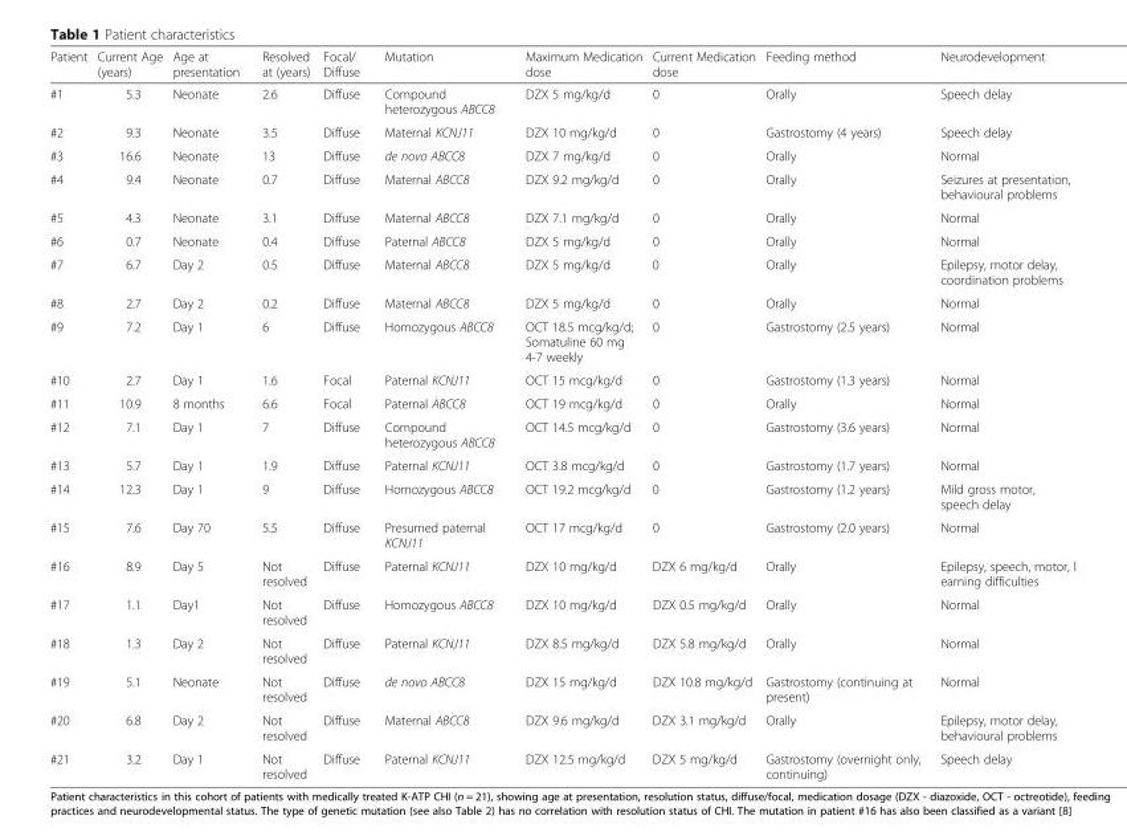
<table><thead><tr><td>Patient</td><td>Current Age (years)</td><td>Age at presentation</td><td>Resolved at (years)</td><td>Focal/ Diffuse</td><td>Mutation</td><td>Maximum Medication dose</td><td>Current Medication dose</td><td>Feeding method</td><td>Neurodevelopment</td></tr></thead><tbody><tr><td>#1</td><td>5.3</td><td>Neonate</td><td>2.6</td><td>Diffuse</td><td>Compound heterozygous ABCC8</td><td>DZX 5 mg/kg/d</td><td>0</td><td>Orally</td><td>Speech delay</td></tr><tr><td>#2</td><td>9.3</td><td>Neonate</td><td>3.5</td><td>Diffuse</td><td>Maternal KCNJ11</td><td>DZX 10 mg/kg/d</td><td>0</td><td>Gastrostomy (4 years)</td><td>Speech delay</td></tr><tr><td>#3</td><td>16.6</td><td>Neonate</td><td>13</td><td>Diffuse</td><td>de novo ABCC8</td><td>DZX 7 mg/kg/d</td><td>0</td><td>Orally</td><td>Normal</td></tr><tr><td>#4</td><td>9.4</td><td>Neonate</td><td>0.7</td><td>Diffuse</td><td>Maternal ABCC8</td><td>DZX 9.2 mg/kg/d</td><td>0</td><td>Orally</td><td>Seizures at presentation, behavioural problems</td></tr><tr><td>#5</td><td>4.3</td><td>Neonate</td><td>3.1</td><td>Diffuse</td><td>Maternal ABCC8</td><td>DZX 7.1 mg/kg/d</td><td>0</td><td>Orally</td><td>Normal</td></tr><tr><td>#6</td><td>0.7</td><td>Neonate</td><td>0.4</td><td>Diffuse</td><td>Paternal ABCC8</td><td>DZX 5 mg/kg/d</td><td>0</td><td>Orally</td><td>Normal</td></tr><tr><td>#7</td><td>6.7</td><td>Day 2</td><td>0.5</td><td>Diffuse</td><td>Maternal ABCC8</td><td>DZX 5 mg/kg/d</td><td>0</td><td>Orally</td><td>Epilepsy, motor delay, coordination problems</td></tr><tr><td>#8</td><td>2.7</td><td>Day 2</td><td>0.2</td><td>Diffuse</td><td>Maternal ABCC8</td><td>DZX 5 mg/kg/d</td><td>0</td><td>Orally</td><td>Normal</td></tr><tr><td>#9</td><td>7.2</td><td>Day 1</td><td>6</td><td>Diffuse</td><td>Homozygous ABCC8</td><td>OCT 18.5 mcg/kg/d; Somatuline 60 mg 4-7 weekly</td><td>0</td><td>Gastrostomy (2.5 years)</td><td>Normal</td></tr><tr><td>#10</td><td>2.7</td><td>Day 1</td><td>1.6</td><td>Focal</td><td>Paternal KCNJ11</td><td>OCT 15 mcg/kg/d</td><td>0</td><td>Gastrostomy (1.3 years)</td><td>Normal</td></tr><tr><td>#11</td><td>10.9</td><td>8 months</td><td>6.6</td><td>Focal</td><td>Paternal ABCC8</td><td>OCT 19 mcg/kg/d</td><td>0</td><td>Orally</td><td>Normal</td></tr><tr><td>#12</td><td>7.1</td><td>Day 1</td><td>7</td><td>Diffuse</td><td>Compound heterozygous ABCC8</td><td>OCT 14.5 mcg/kg/d</td><td>0</td><td>Gastrostomy (3.6 years)</td><td>Normal</td></tr><tr><td>#13</td><td>5.7</td><td>Day 1</td><td>1.9</td><td>Diffuse</td><td>Paternal KCNJ11</td><td>OCT 3.8 mcg/kg/d</td><td>0</td><td>Gastrostomy (1.7 years)</td><td>Normal</td></tr><tr><td>#14</td><td>12.3</td><td>Day 1</td><td>9</td><td>Diffuse</td><td>Homozygous ABCC8</td><td>OCT 19.2 mcg/kg/d</td><td>0</td><td>Gastrostomy (1.2 years)</td><td>Mild gross motor, speech delay</td></tr><tr><td>#15</td><td>7.6</td><td>Day 70</td><td>5.5</td><td>Diffuse</td><td>Presumed paternal KCNJ11</td><td>OCT 17 mcg/kg/d</td><td>0</td><td>Gastrostomy (2.0 years)</td><td>Normal</td></tr><tr><td>#16</td><td>8.9</td><td>Day 5</td><td>Not resolved</td><td>Diffuse</td><td>Paternal KCNJ11</td><td>DZX 10 mg/kg/d</td><td>DZX 6 mg/kg/d</td><td>Orally</td><td>Epilepsy, speech, motor, l earning difficulties</td></tr><tr><td>#17</td><td>1.1</td><td>Day1</td><td>Not resolved</td><td>Diffuse</td><td>Homozygous ABCC8</td><td>DZX 10 mg/kg/d</td><td>DZX 0.5 mg/kg/d</td><td>Orally</td><td>Normal</td></tr><tr><td>#18</td><td>1.3</td><td>Day 2</td><td>Not resolved</td><td>Diffuse</td><td>Paternal KCNJ11</td><td>DZX 8.5 mg/kg/d</td><td>DZX 5.8 mg/kg/d</td><td>Orally</td><td>Normal</td></tr><tr><td>#19</td><td>5.1</td><td>Neonate</td><td>Not resolved</td><td>Diffuse</td><td>de novo ABCC8</td><td>DZX 15 mg/kg/d</td><td>DZX 10.8 mg/kg/d</td><td>Gastrostomy (continuing at present)</td><td>Normal</td></tr><tr><td>#20</td><td>6.8</td><td>Day 2</td><td>Not resolved</td><td>Diffuse</td><td>Maternal ABCC8</td><td>DZX 9.6 mg/kg/d</td><td>DZX 3.1 mg/kg/d</td><td>Orally</td><td>Epilepsy, motor delay, behavioural problems</td></tr><tr><td>#21</td><td>3.2</td><td>Day 1</td><td>Not resolved</td><td>Diffuse</td><td>Paternal KCNJ11</td><td>DZX 12.5 mg/kg/d</td><td>DZX 5 mg/kg/d</td><td>Gastrostomy (overnight only, continuing)</td><td>Speech delay</td></tr></tbody></table>